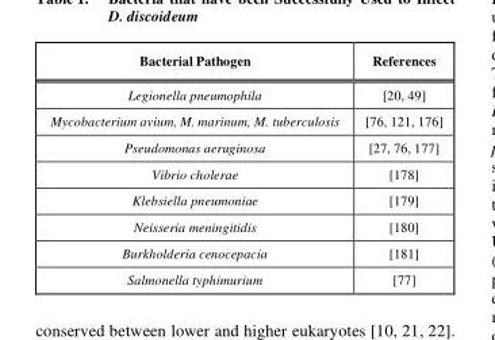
<table><thead><tr><td>Bacterial Pathogen</td><td>References</td></tr></thead><tbody><tr><td>Legionella pneumophila</td><td>[20, 49]</td></tr><tr><td>Mycobacterium avium, M. marinum, M. tuberculosis</td><td>[76, 121, 176]</td></tr><tr><td>Pseudomonas aeruginosa</td><td>[27, 76, 177]</td></tr><tr><td>Vibrio cholerae</td><td>[178]</td></tr><tr><td>Klebsiella pneumoniae</td><td>[179]</td></tr><tr><td>Neisseria meningitidis</td><td>[180]</td></tr><tr><td>Burkholderia cenocepacia</td><td>[181]</td></tr><tr><td>Salmonella typhimurium</td><td>[77]</td></tr></tbody></table>